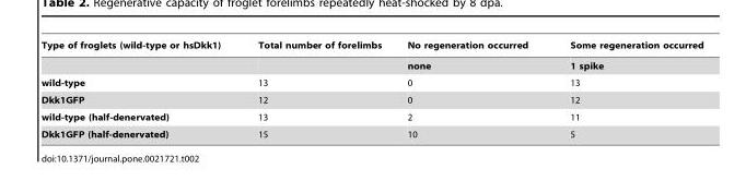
<table><thead><tr><td>Type of froglets (wild-type or hsDkk1)</td><td>Total number of forelimbs</td><td>No regeneration occurred</td><td>Some regeneration occurred</td></tr></thead><tbody><tr><td></td><td></td><td>none</td><td>1 spike</td></tr><tr><td>wild-type</td><td>13</td><td>0</td><td>13</td></tr><tr><td>Dkk1GFP</td><td>12</td><td>0</td><td>12</td></tr><tr><td>wild-type (half-denervated)</td><td>13</td><td>2</td><td>11</td></tr><tr><td>Dkk1GFP (half-denervated)</td><td>15</td><td>10</td><td>5</td></tr></tbody></table>